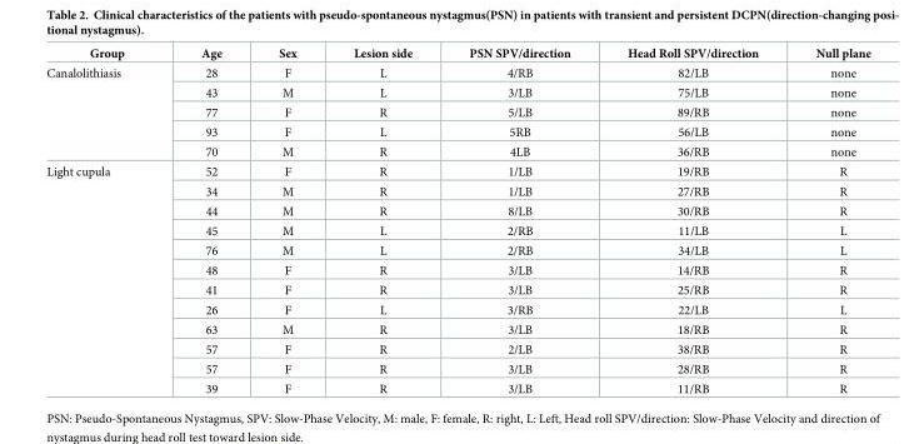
<table><thead><tr><td>Group</td><td>Age</td><td>Sex</td><td>Lesion side</td><td>PSN SPV/direction</td><td>Head Roll SPV/direction</td><td>Null plane</td></tr></thead><tbody><tr><td rowspan="5">Canalolithiasis</td><td>28</td><td>F</td><td>L</td><td>4/RB</td><td>82/LB</td><td>none</td></tr><tr><td>43</td><td>M</td><td>L</td><td>3/LB</td><td>75/LB</td><td>none</td></tr><tr><td>77</td><td>F</td><td>R</td><td>5/LB</td><td>89/RB</td><td>none</td></tr><tr><td>93</td><td>F</td><td>L</td><td>5RB</td><td>56/LB</td><td>none</td></tr><tr><td>70</td><td>M</td><td>R</td><td>4LB</td><td>36/RB</td><td>none</td></tr><tr><td rowspan="12">Light cupula</td><td>52</td><td>F</td><td>R</td><td>1/LB</td><td>19/RB</td><td>R</td></tr><tr><td>34</td><td>M</td><td>R</td><td>1/LB</td><td>27/RB</td><td>R</td></tr><tr><td>44</td><td>M</td><td>R</td><td>8/LB</td><td>30/RB</td><td>R</td></tr><tr><td>45</td><td>M</td><td>L</td><td>2/RB</td><td>11/LB</td><td>L</td></tr><tr><td>76</td><td>M</td><td>L</td><td>2/RB</td><td>34/LB</td><td>L</td></tr><tr><td>48</td><td>F</td><td>R</td><td>3/LB</td><td>14/RB</td><td>R</td></tr><tr><td>41</td><td>F</td><td>R</td><td>3/LB</td><td>25/RB</td><td>R</td></tr><tr><td>26</td><td>F</td><td>L</td><td>3/RB</td><td>22/LB</td><td>L</td></tr><tr><td>63</td><td>M</td><td>R</td><td>3/LB</td><td>18/RB</td><td>R</td></tr><tr><td>57</td><td>F</td><td>R</td><td>2/LB</td><td>38/RB</td><td>R</td></tr><tr><td>57</td><td>F</td><td>R</td><td>3/LB</td><td>28/RB</td><td>R</td></tr><tr><td>39</td><td>F</td><td>R</td><td>3/LB</td><td>11/RB</td><td>R</td></tr></tbody></table>